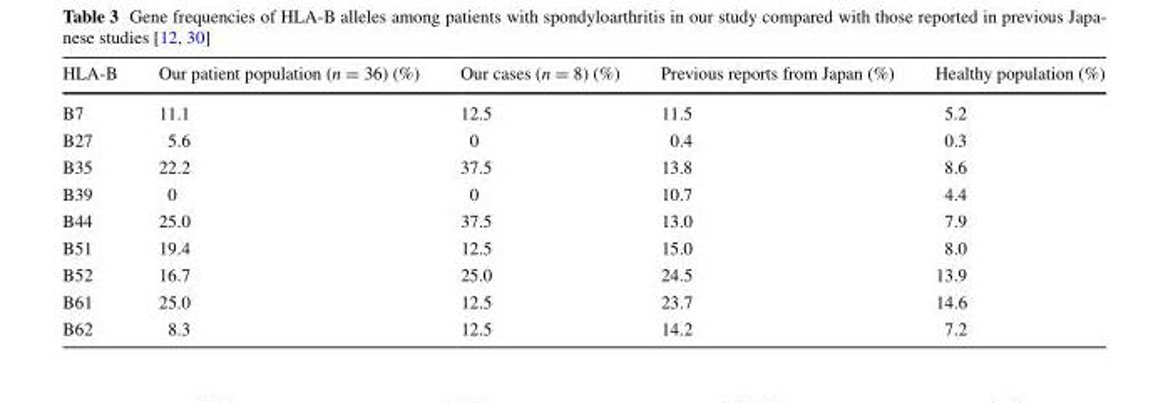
<table><thead><tr><td>HLA-B</td><td>Our patient population (n = 36) (%)</td><td>Our cases (n = 8) (%)</td><td>Previous reports from Japan (%)</td><td>Healthy population (%)</td></tr></thead><tbody><tr><td>B7</td><td>11.1</td><td>12.5</td><td>11.5</td><td>5.2</td></tr><tr><td>B27</td><td>5.6</td><td>0</td><td>0.4</td><td>0.3</td></tr><tr><td>B35</td><td>22.2</td><td>37.5</td><td>13.8</td><td>8.6</td></tr><tr><td>B39</td><td>0</td><td>0</td><td>10.7</td><td>4.4</td></tr><tr><td>B44</td><td>25.0</td><td>37.5</td><td>13.0</td><td>7.9</td></tr><tr><td>B51</td><td>19.4</td><td>12.5</td><td>15.0</td><td>8.0</td></tr><tr><td>B52</td><td>16.7</td><td>25.0</td><td>24.5</td><td>13.9</td></tr><tr><td>B61</td><td>25.0</td><td>12.5</td><td>23.7</td><td>14.6</td></tr><tr><td>B62</td><td>8.3</td><td>12.5</td><td>14.2</td><td>7.2</td></tr></tbody></table>